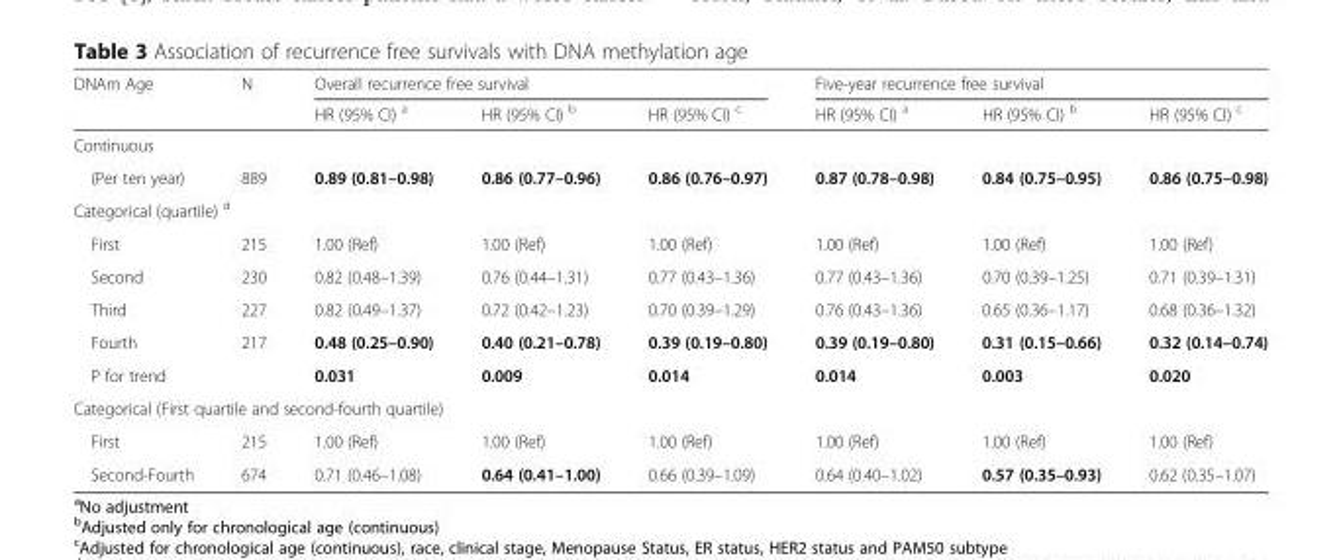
<table><thead><tr><td rowspan="2">DNAm Age</td><td rowspan="2">N</td><td colspan="3">Overall recurrence free survival</td><td colspan="3">Five-year recurrence free survival</td></tr><tr><td>HR (95% CI) <sup>a</sup></td><td>HR (95% CI) <sup>b</sup></td><td>HR (95% CI) <sup>c</sup></td><td>HR (95% CI) <sup>a</sup></td><td>HR (95% CI) <sup>b</sup></td><td>HR (95% CI) <sup>c</sup></td></tr></thead><tbody><tr><td colspan="8">Continuous</td></tr><tr><td>(Per ten year)</td><td>889</td><td>0.89 (0.81–0.98)</td><td>0.86 (0.77–0.96)</td><td>0.86 (0.76–0.97)</td><td>0.87 (0.78–0.98)</td><td>0.84 (0.75–0.95)</td><td>0.86 (0.75–0.98)</td></tr><tr><td colspan="8">Categorical (quartile) <sup>d</sup></td></tr><tr><td>First</td><td>215</td><td>1.00 (Ref)</td><td>1.00 (Ref)</td><td>1.00 (Ref)</td><td>1.00 (Ref)</td><td>1.00 (Ref)</td><td>1.00 (Ref)</td></tr><tr><td>Second</td><td>230</td><td>0.82 (0.48–1.39)</td><td>0.76 (0.44–1.31)</td><td>0.77 (0.43–1.36)</td><td>0.77 (0.43–1.36)</td><td>0.70 (0.39–1.25)</td><td>0.71 (0.39–1.31)</td></tr><tr><td>Third</td><td>227</td><td>0.82 (0.49–1.37)</td><td>0.72 (0.42–1.23)</td><td>0.70 (0.39–1.29)</td><td>0.76 (0.43–1.36)</td><td>0.65 (0.36–1.17)</td><td>0.68 (0.36–1.32)</td></tr><tr><td>Fourth</td><td>217</td><td>0.48 (0.25–0.90)</td><td>0.40 (0.21–0.78)</td><td>0.39 (0.19–0.80)</td><td>0.39 (0.19–0.80)</td><td>0.31 (0.15–0.66)</td><td>0.32 (0.14–0.74)</td></tr><tr><td colspan="2">P for trend</td><td>0.031</td><td>0.009</td><td>0.014</td><td>0.014</td><td>0.003</td><td>0.020</td></tr><tr><td colspan="8">Categorical (First quartile and second-fourth quartile)</td></tr><tr><td>First</td><td>215</td><td>1.00 (Ref)</td><td>1.00 (Ref)</td><td>1.00 (Ref)</td><td>1.00 (Ref)</td><td>1.00 (Ref)</td><td>1.00 (Ref)</td></tr><tr><td>Second-Fourth</td><td>674</td><td>0.71 (0.46–1.08)</td><td>0.64 (0.41–1.00)</td><td>0.66 (0.39–1.09)</td><td>0.64 (0.40–1.02)</td><td>0.57 (0.35–0.93)</td><td>0.62 (0.35–1.07)</td></tr></tbody></table>